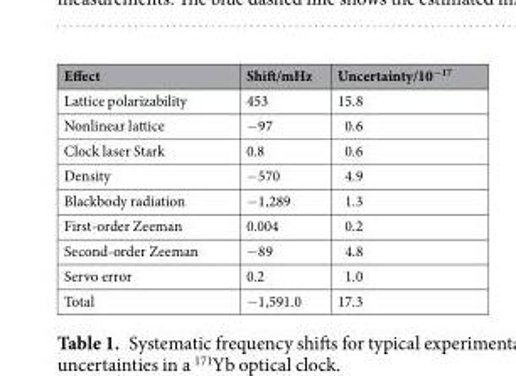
<table><thead><tr><td>Effect</td><td>Shift/mHz</td><td>Uncertainty/10<sup>−17</sup></td></tr></thead><tbody><tr><td>Lattice polarizability</td><td>453</td><td>15.8</td></tr><tr><td>Nonlinear lattice</td><td>−97</td><td>0.6</td></tr><tr><td>Clock laser Stark</td><td>0.8</td><td>0.6</td></tr><tr><td>Density</td><td>−570</td><td>4.9</td></tr><tr><td>Blackbody radiation</td><td>−1,289</td><td>1.3</td></tr><tr><td>First-order Zeeman</td><td>0.004</td><td>0.2</td></tr><tr><td>Second-order Zeeman</td><td>−89</td><td>4.8</td></tr><tr><td>Servo error</td><td>0.2</td><td>1.0</td></tr><tr><td>Total</td><td>−1,591.0</td><td>17.3</td></tr></tbody></table>